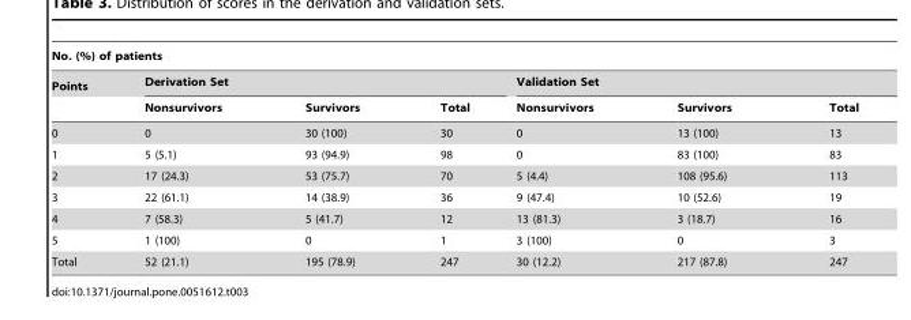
<table><thead><tr><td colspan="7">No. (%) of patients</td></tr><tr><td rowspan="2">Points</td><td colspan="3">Derivation Set</td><td colspan="3">Validation Set</td></tr><tr><td>Nonsurvivors</td><td>Survivors</td><td>Total</td><td>Nonsurvivors</td><td>Survivors</td><td>Total</td></tr></thead><tbody><tr><td>0</td><td>0</td><td>30 (100)</td><td>30</td><td>0</td><td>13 (100)</td><td>13</td></tr><tr><td>1</td><td>5 (5.1)</td><td>93 (94.9)</td><td>98</td><td>0</td><td>83 (100)</td><td>83</td></tr><tr><td>2</td><td>17 (24.3)</td><td>53 (75.7)</td><td>70</td><td>5 (4.4)</td><td>108 (95.6)</td><td>113</td></tr><tr><td>3</td><td>22 (61.1)</td><td>14 (38.9)</td><td>36</td><td>9 (47.4)</td><td>10 (52.6)</td><td>19</td></tr><tr><td>4</td><td>7 (58.3)</td><td>5 (41.7)</td><td>12</td><td>13 (81.3)</td><td>3 (18.7)</td><td>16</td></tr><tr><td>5</td><td>1 (100)</td><td>0</td><td>1</td><td>3 (100)</td><td>0</td><td>3</td></tr><tr><td>Total</td><td>52 (21.1)</td><td>195 (78.9)</td><td>247</td><td>30 (12.2)</td><td>217 (87.8)</td><td>247</td></tr></tbody></table>